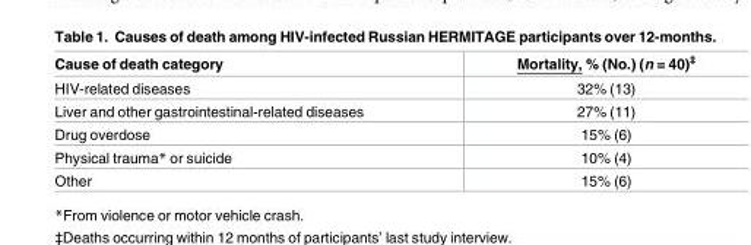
<table><thead><tr><td>Cause of death category</td><td>Mortality, % (No.) (n = 40)<sup>‡</sup></td></tr></thead><tbody><tr><td>HIV-related diseases</td><td>32% (13)</td></tr><tr><td>Liver and other gastrointestinal-related diseases</td><td>27% (11)</td></tr><tr><td>Drug overdose</td><td>15% (6)</td></tr><tr><td>Physical trauma* or suicide</td><td>10% (4)</td></tr><tr><td>Other</td><td>15% (6)</td></tr></tbody></table>